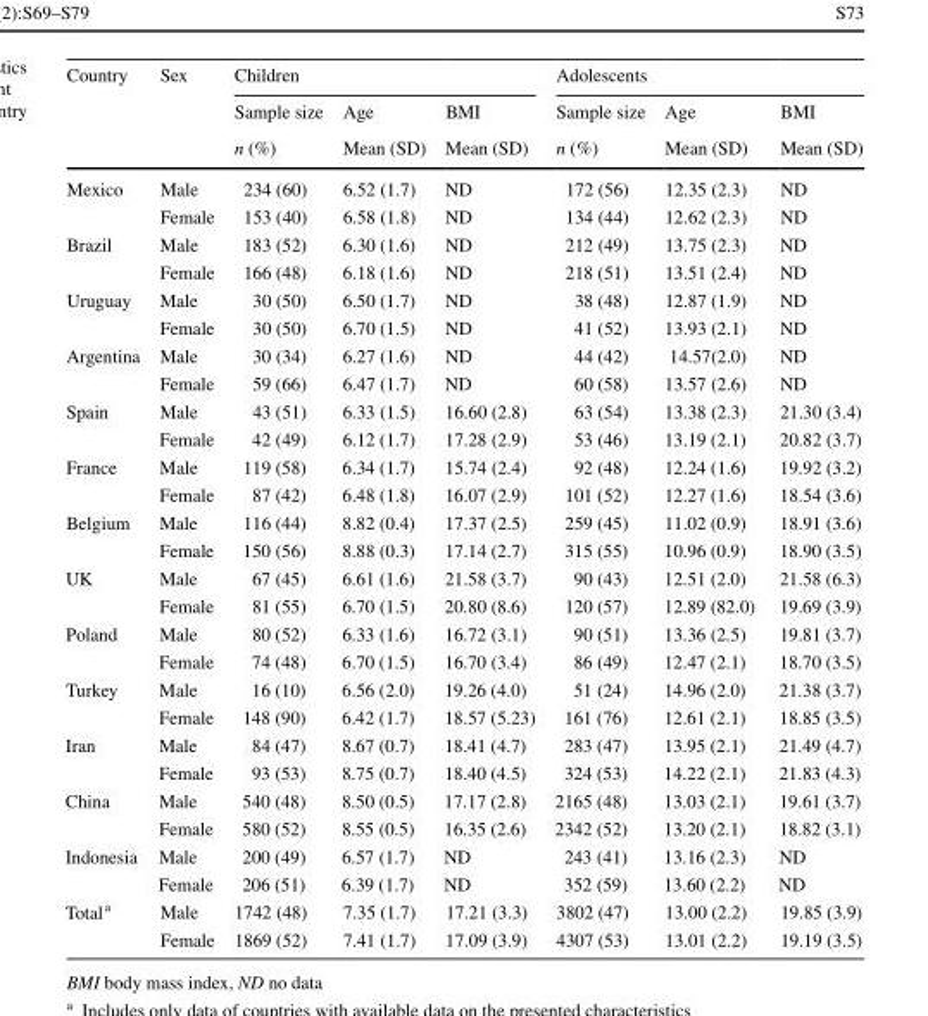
<table><thead><tr><td rowspan="3">Country</td><td rowspan="3">Sex</td><td colspan="3">Children</td><td colspan="3">Adolescents</td></tr><tr><td rowspan="2">Sample size n (%)</td><td rowspan="2">Age Mean (SD)</td><td rowspan="2">BMI Mean (SD)</td><td rowspan="2">Sample size n (%)</td><td rowspan="2">Age Mean (SD)</td><td rowspan="2">BMI Mean (SD)</td></tr><tr></tr></thead><tbody><tr><td rowspan="2">Mexico</td><td>Male</td><td>234 (60)</td><td>6.52 (1.7)</td><td>ND</td><td>172 (56)</td><td>12.35 (2.3)</td><td>ND</td></tr><tr><td>Female</td><td>153 (40)</td><td>6.58 (1.8)</td><td>ND</td><td>134 (44)</td><td>12.62 (2.3)</td><td>ND</td></tr><tr><td rowspan="2">Brazil</td><td>Male</td><td>183 (52)</td><td>6.30 (1.6)</td><td>ND</td><td>212 (49)</td><td>13.75 (2.3)</td><td>ND</td></tr><tr><td>Female</td><td>166 (48)</td><td>6.18 (1.6)</td><td>ND</td><td>218 (51)</td><td>13.51 (2.4)</td><td>ND</td></tr><tr><td rowspan="2">Uruguay</td><td>Male</td><td>30 (50)</td><td>6.50 (1.7)</td><td>ND</td><td>38 (48)</td><td>12.87 (1.9)</td><td>ND</td></tr><tr><td>Female</td><td>30 (50)</td><td>6.70 (1.5)</td><td>ND</td><td>41 (52)</td><td>13.93 (2.1)</td><td>ND</td></tr><tr><td rowspan="2">Argentina</td><td>Male</td><td>30 (34)</td><td>6.27 (1.6)</td><td>ND</td><td>44 (42)</td><td>14.57(2.0)</td><td>ND</td></tr><tr><td>Female</td><td>59 (66)</td><td>6.47 (1.7)</td><td>ND</td><td>60 (58)</td><td>13.57 (2.6)</td><td>ND</td></tr><tr><td rowspan="2">Spain</td><td>Male</td><td>43 (51)</td><td>6.33 (1.5)</td><td>16.60 (2.8)</td><td>63 (54)</td><td>13.38 (2.3)</td><td>21.30 (3.4)</td></tr><tr><td>Female</td><td>42 (49)</td><td>6.12 (1.7)</td><td>17.28 (2.9)</td><td>53 (46)</td><td>13.19 (2.1)</td><td>20.82 (3.7)</td></tr><tr><td rowspan="2">France</td><td>Male</td><td>119 (58)</td><td>6.34 (1.7)</td><td>15.74 (2.4)</td><td>92 (48)</td><td>12.24 (1.6)</td><td>19.92 (3.2)</td></tr><tr><td>Female</td><td>87 (42)</td><td>6.48 (1.8)</td><td>16.07 (2.9)</td><td>101 (52)</td><td>12.27 (1.6)</td><td>18.54 (3.6)</td></tr><tr><td rowspan="2">Belgium</td><td>Male</td><td>116 (44)</td><td>8.82 (0.4)</td><td>17.37 (2.5)</td><td>259 (45)</td><td>11.02 (0.9)</td><td>18.91 (3.6)</td></tr><tr><td>Female</td><td>150 (56)</td><td>8.88 (0.3)</td><td>17.14 (2.7)</td><td>315 (55)</td><td>10.96 (0.9)</td><td>18.90 (3.5)</td></tr><tr><td rowspan="2">UK</td><td>Male</td><td>67 (45)</td><td>6.61 (1.6)</td><td>21.58 (3.7)</td><td>90 (43)</td><td>12.51 (2.0)</td><td>21.58 (6.3)</td></tr><tr><td>Female</td><td>81 (55)</td><td>6.70 (1.5)</td><td>20.80 (8.6)</td><td>120 (57)</td><td>12.89 (82.0)</td><td>19.69 (3.9)</td></tr><tr><td rowspan="2">Poland</td><td>Male</td><td>80 (52)</td><td>6.33 (1.6)</td><td>16.72 (3.1)</td><td>90 (51)</td><td>13.36 (2.5)</td><td>19.81 (3.7)</td></tr><tr><td>Female</td><td>74 (48)</td><td>6.70 (1.5)</td><td>16.70 (3.4)</td><td>86 (49)</td><td>12.47 (2.1)</td><td>18.70 (3.5)</td></tr><tr><td rowspan="2">Turkey</td><td>Male</td><td>16 (10)</td><td>6.56 (2.0)</td><td>19.26 (4.0)</td><td>51 (24)</td><td>14.96 (2.0)</td><td>21.38 (3.7)</td></tr><tr><td>Female</td><td>148 (90)</td><td>6.42 (1.7)</td><td>18.57 (5.23)</td><td>161 (76)</td><td>12.61 (2.1)</td><td>18.85 (3.5)</td></tr><tr><td rowspan="2">Iran</td><td>Male</td><td>84 (47)</td><td>8.67 (0.7)</td><td>18.41 (4.7)</td><td>283 (47)</td><td>13.95 (2.1)</td><td>21.49 (4.7)</td></tr><tr><td>Female</td><td>93 (53)</td><td>8.75 (0.7)</td><td>18.40 (4.5)</td><td>324 (53)</td><td>14.22 (2.1)</td><td>21.83 (4.3)</td></tr><tr><td rowspan="2">China</td><td>Male</td><td>540 (48)</td><td>8.50 (0.5)</td><td>17.17 (2.8)</td><td>2165 (48)</td><td>13.03 (2.1)</td><td>19.61 (3.7)</td></tr><tr><td>Female</td><td>580 (52)</td><td>8.55 (0.5)</td><td>16.35 (2.6)</td><td>2342 (52)</td><td>13.20 (2.1)</td><td>18.82 (3.1)</td></tr><tr><td rowspan="2">Indonesia</td><td>Male</td><td>200 (49)</td><td>6.57 (1.7)</td><td>ND</td><td>243 (41)</td><td>13.16 (2.3)</td><td>ND</td></tr><tr><td>Female</td><td>206 (51)</td><td>6.39 (1.7)</td><td>ND</td><td>352 (59)</td><td>13.60 (2.2)</td><td>ND</td></tr><tr><td rowspan="2">Total<sup>a</sup></td><td>Male</td><td>1742 (48)</td><td>7.35 (1.7)</td><td>17.21 (3.3)</td><td>3802 (47)</td><td>13.00 (2.2)</td><td>19.85 (3.9)</td></tr><tr><td>Female</td><td>1869 (52)</td><td>7.41 (1.7)</td><td>17.09 (3.9)</td><td>4307 (53)</td><td>13.01 (2.2)</td><td>19.19 (3.5)</td></tr></tbody></table>